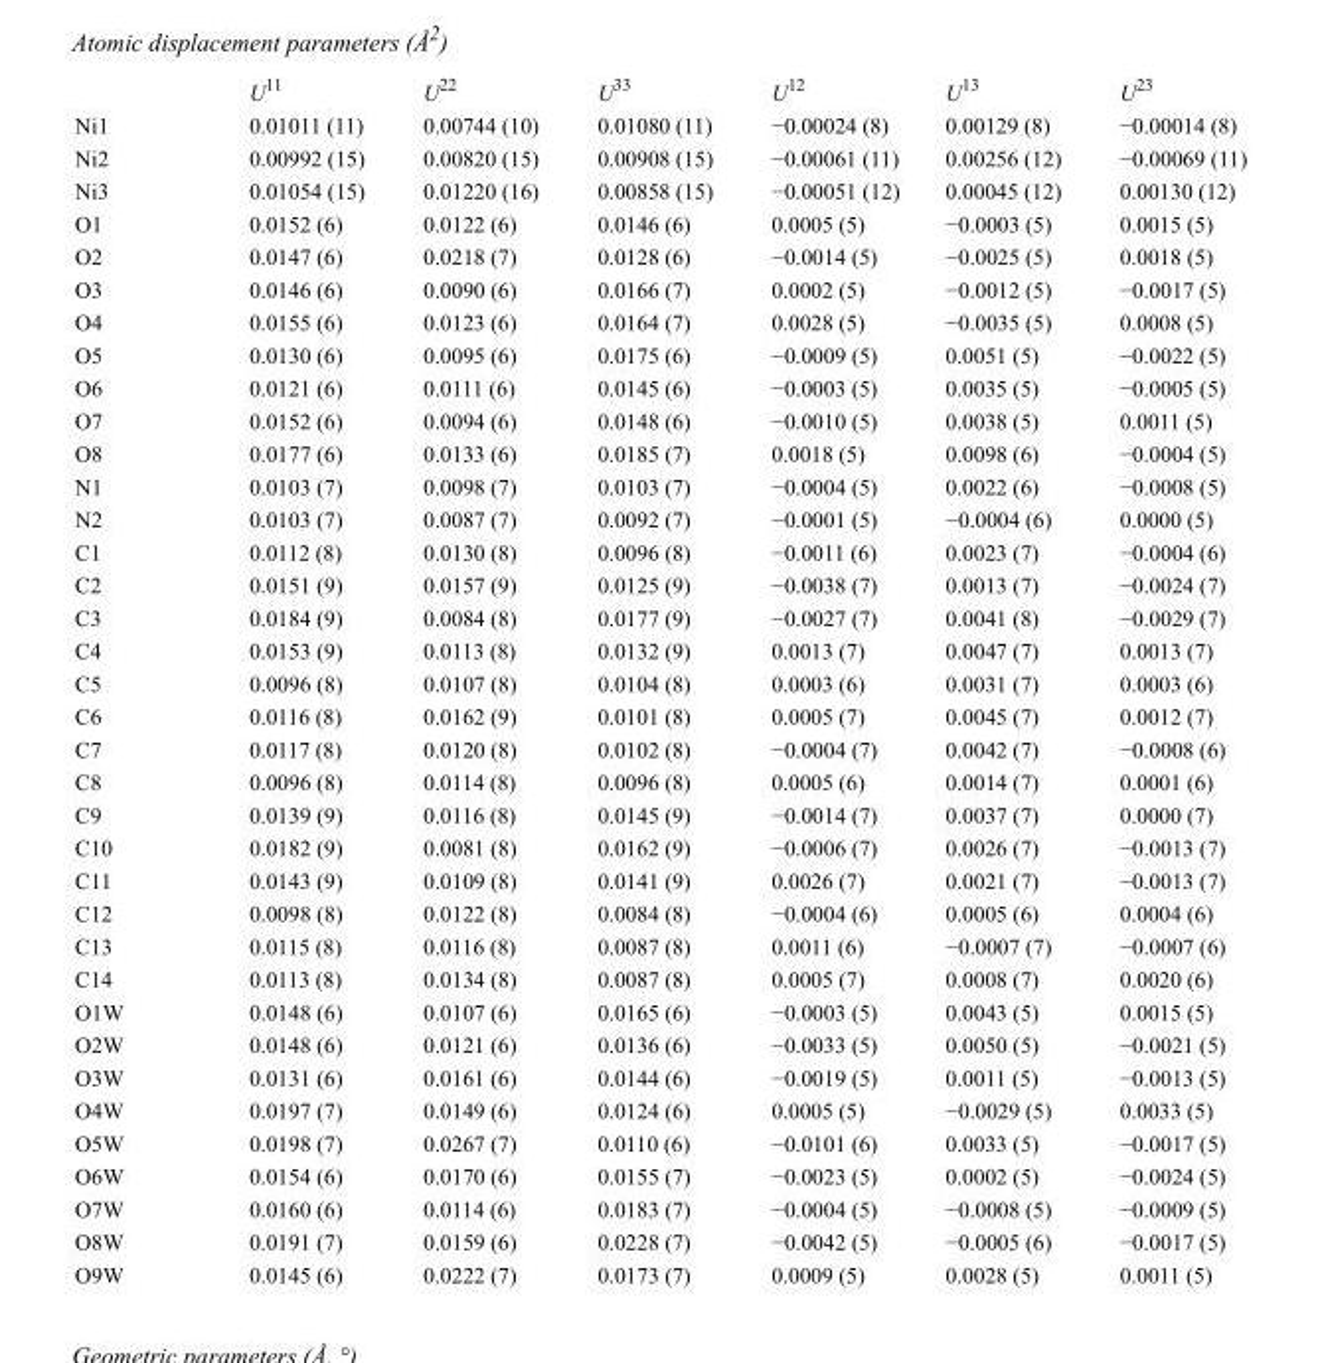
<table><thead><tr><td></td><td>U<sup>11</sup></td><td>U<sup>22</sup></td><td>U<sup>33</sup></td><td>U<sup>12</sup></td><td>U<sup>13</sup></td><td>U<sup>23</sup></td></tr></thead><tbody><tr><td>Ni1</td><td>0.01011 (11)</td><td>0.00744 (10)</td><td>0.01080 (11)</td><td>−0.00024 (8)</td><td>0.00129 (8)</td><td>−0.00014 (8)</td></tr><tr><td>Ni2</td><td>0.00992 (15)</td><td>0.00820 (15)</td><td>0.00908 (15)</td><td>−0.00061 (11)</td><td>0.00256 (12)</td><td>−0.00069 (11)</td></tr><tr><td>Ni3</td><td>0.01054 (15)</td><td>0.01220 (16)</td><td>0.00858 (15)</td><td>−0.00051 (12)</td><td>0.00045 (12)</td><td>0.00130 (12)</td></tr><tr><td>O1</td><td>0.0152 (6)</td><td>0.0122 (6)</td><td>0.0146 (6)</td><td>0.0005 (5)</td><td>−0.0003 (5)</td><td>0.0015 (5)</td></tr><tr><td>O2</td><td>0.0147 (6)</td><td>0.0218 (7)</td><td>0.0128 (6)</td><td>−0.0014 (5)</td><td>−0.0025 (5)</td><td>0.0018 (5)</td></tr><tr><td>O3</td><td>0.0146 (6)</td><td>0.0090 (6)</td><td>0.0166 (7)</td><td>0.0002 (5)</td><td>−0.0012 (5)</td><td>−0.0017 (5)</td></tr><tr><td>O4</td><td>0.0155 (6)</td><td>0.0123 (6)</td><td>0.0164 (7)</td><td>0.0028 (5)</td><td>−0.0035 (5)</td><td>0.0008 (5)</td></tr><tr><td>O5</td><td>0.0130 (6)</td><td>0.0095 (6)</td><td>0.0175 (6)</td><td>−0.0009 (5)</td><td>0.0051 (5)</td><td>−0.0022 (5)</td></tr><tr><td>O6</td><td>0.0121 (6)</td><td>0.0111 (6)</td><td>0.0145 (6)</td><td>−0.0003 (5)</td><td>0.0035 (5)</td><td>−0.0005 (5)</td></tr><tr><td>O7</td><td>0.0152 (6)</td><td>0.0094 (6)</td><td>0.0148 (6)</td><td>−0.0010 (5)</td><td>0.0038 (5)</td><td>0.0011 (5)</td></tr><tr><td>O8</td><td>0.0177 (6)</td><td>0.0133 (6)</td><td>0.0185 (7)</td><td>0.0018 (5)</td><td>0.0098 (6)</td><td>−0.0004 (5)</td></tr><tr><td>N1</td><td>0.0103 (7)</td><td>0.0098 (7)</td><td>0.0103 (7)</td><td>−0.0004 (5)</td><td>0.0022 (6)</td><td>−0.0008 (5)</td></tr><tr><td>N2</td><td>0.0103 (7)</td><td>0.0087 (7)</td><td>0.0092 (7)</td><td>−0.0001 (5)</td><td>−0.0004 (6)</td><td>0.0000 (5)</td></tr><tr><td>C1</td><td>0.0112 (8)</td><td>0.0130 (8)</td><td>0.0096 (8)</td><td>−0.0011 (6)</td><td>0.0023 (7)</td><td>−0.0004 (6)</td></tr><tr><td>C2</td><td>0.0151 (9)</td><td>0.0157 (9)</td><td>0.0125 (9)</td><td>−0.0038 (7)</td><td>0.0013 (7)</td><td>−0.0024 (7)</td></tr><tr><td>C3</td><td>0.0184 (9)</td><td>0.0084 (8)</td><td>0.0177 (9)</td><td>−0.0027 (7)</td><td>0.0041 (8)</td><td>−0.0029 (7)</td></tr><tr><td>C4</td><td>0.0153 (9)</td><td>0.0113 (8)</td><td>0.0132 (9)</td><td>0.0013 (7)</td><td>0.0047 (7)</td><td>0.0013 (7)</td></tr><tr><td>C5</td><td>0.0096 (8)</td><td>0.0107 (8)</td><td>0.0104 (8)</td><td>0.0003 (6)</td><td>0.0031 (7)</td><td>0.0003 (6)</td></tr><tr><td>C6</td><td>0.0116 (8)</td><td>0.0162 (9)</td><td>0.0101 (8)</td><td>0.0005 (7)</td><td>0.0045 (7)</td><td>0.0012 (7)</td></tr><tr><td>C7</td><td>0.0117 (8)</td><td>0.0120 (8)</td><td>0.0102 (8)</td><td>−0.0004 (7)</td><td>0.0042 (7)</td><td>−0.0008 (6)</td></tr><tr><td>C8</td><td>0.0096 (8)</td><td>0.0114 (8)</td><td>0.0096 (8)</td><td>0.0005 (6)</td><td>0.0014 (7)</td><td>0.0001 (6)</td></tr><tr><td>C9</td><td>0.0139 (9)</td><td>0.0116 (8)</td><td>0.0145 (9)</td><td>−0.0014 (7)</td><td>0.0037 (7)</td><td>0.0000 (7)</td></tr><tr><td>C10</td><td>0.0182 (9)</td><td>0.0081 (8)</td><td>0.0162 (9)</td><td>−0.0006 (7)</td><td>0.0026 (7)</td><td>−0.0013 (7)</td></tr><tr><td>C11</td><td>0.0143 (9)</td><td>0.0109 (8)</td><td>0.0141 (9)</td><td>0.0026 (7)</td><td>0.0021 (7)</td><td>−0.0013 (7)</td></tr><tr><td>C12</td><td>0.0098 (8)</td><td>0.0122 (8)</td><td>0.0084 (8)</td><td>−0.0004 (6)</td><td>0.0005 (6)</td><td>0.0004 (6)</td></tr><tr><td>C13</td><td>0.0115 (8)</td><td>0.0116 (8)</td><td>0.0087 (8)</td><td>0.0011 (6)</td><td>−0.0007 (7)</td><td>−0.0007 (6)</td></tr><tr><td>C14</td><td>0.0113 (8)</td><td>0.0134 (8)</td><td>0.0087 (8)</td><td>0.0005 (7)</td><td>0.0008 (7)</td><td>0.0020 (6)</td></tr><tr><td>O1W</td><td>0.0148 (6)</td><td>0.0107 (6)</td><td>0.0165 (6)</td><td>−0.0003 (5)</td><td>0.0043 (5)</td><td>0.0015 (5)</td></tr><tr><td>O2W</td><td>0.0148 (6)</td><td>0.0121 (6)</td><td>0.0136 (6)</td><td>−0.0033 (5)</td><td>0.0050 (5)</td><td>−0.0021 (5)</td></tr><tr><td>O3W</td><td>0.0131 (6)</td><td>0.0161 (6)</td><td>0.0144 (6)</td><td>−0.0019 (5)</td><td>0.0011 (5)</td><td>−0.0013 (5)</td></tr><tr><td>O4W</td><td>0.0197 (7)</td><td>0.0149 (6)</td><td>0.0124 (6)</td><td>0.0005 (5)</td><td>−0.0029 (5)</td><td>0.0033 (5)</td></tr><tr><td>O5W</td><td>0.0198 (7)</td><td>0.0267 (7)</td><td>0.0110 (6)</td><td>−0.0101 (6)</td><td>0.0033 (5)</td><td>−0.0017 (5)</td></tr><tr><td>O6W</td><td>0.0154 (6)</td><td>0.0170 (6)</td><td>0.0155 (7)</td><td>−0.0023 (5)</td><td>0.0002 (5)</td><td>−0.0024 (5)</td></tr><tr><td>O7W</td><td>0.0160 (6)</td><td>0.0114 (6)</td><td>0.0183 (7)</td><td>−0.0004 (5)</td><td>−0.0008 (5)</td><td>−0.0009 (5)</td></tr><tr><td>O8W</td><td>0.0191 (7)</td><td>0.0159 (6)</td><td>0.0228 (7)</td><td>−0.0042 (5)</td><td>−0.0005 (6)</td><td>−0.0017 (5)</td></tr><tr><td>O9W</td><td>0.0145 (6)</td><td>0.0222 (7)</td><td>0.0173 (7)</td><td>0.0009 (5)</td><td>0.0028 (5)</td><td>0.0011 (5)</td></tr></tbody></table>